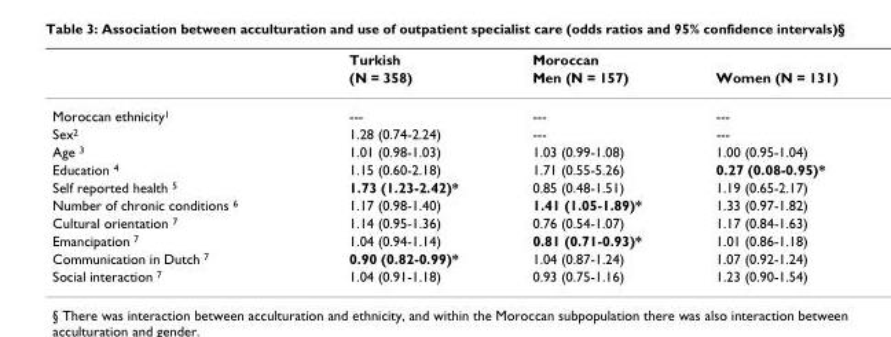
<table><thead><tr><td rowspan="2"></td><td rowspan="2">Turkish (N = 358)</td><td rowspan="2">Moroccan Men (N = 157)</td><td rowspan="2">Women (N = 131)</td></tr><tr></tr></thead><tbody><tr><td>Moroccan ethnicity<sup>1</sup></td><td>---</td><td>---</td><td>---</td></tr><tr><td>Sex<sup>2</sup></td><td>1.28 (0.74-2.24)</td><td>---</td><td>---</td></tr><tr><td>Age <sup>3</sup></td><td>1.01 (0.98-1.03)</td><td>1.03 (0.99-1.08)</td><td>1.00 (0.95-1.04)</td></tr><tr><td>Education <sup>4</sup></td><td>1.15 (0.60-2.18)</td><td>1.71 (0.55-5.26)</td><td>0.27 (0.08-0.95)*</td></tr><tr><td>Self reported health <sup>5</sup></td><td>1.73 (1.23-2.42)*</td><td>0.85 (0.48-1.51)</td><td>1.19 (0.65-2.17)</td></tr><tr><td>Number of chronic conditions <sup>6</sup></td><td>1.17 (0.98-1.40)</td><td>1.41 (1.05-1.89)*</td><td>1.33 (0.97-1.82)</td></tr><tr><td>Cultural orientation <sup>7</sup></td><td>1.14 (0.95-1.36)</td><td>0.76 (0.54-1.07)</td><td>1.17 (0.84-1.63)</td></tr><tr><td>Emancipation <sup>7</sup></td><td>1.04 (0.94-1.14)</td><td>0.81 (0.71-0.93)*</td><td>1.01 (0.86-1.18)</td></tr><tr><td>Communication in Dutch <sup>7</sup></td><td>0.90 (0.82-0.99)*</td><td>1.04 (0.87-1.24)</td><td>1.07 (0.92-1.24)</td></tr><tr><td>Social interaction <sup>7</sup></td><td>1.04 (0.91-1.18)</td><td>0.93 (0.75-1.16)</td><td>1.23 (0.90-1.54)</td></tr></tbody></table>